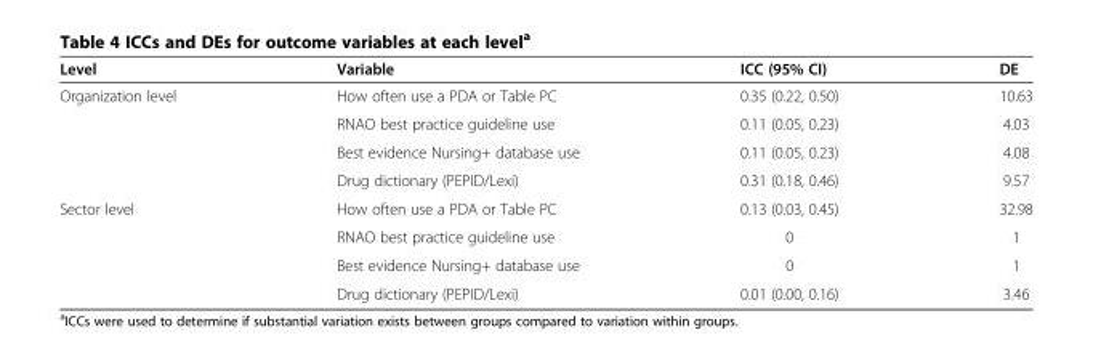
<table><thead><tr><td>Level</td><td>Variable</td><td>ICC (95% CI)</td><td>DE</td></tr></thead><tbody><tr><td rowspan="4">Organization level</td><td>How often use a PDA or Table PC</td><td>0.35 (0.22, 0.50)</td><td>10.63</td></tr><tr><td>RNAO best practice guideline use</td><td>0.11 (0.05, 0.23)</td><td>4.03</td></tr><tr><td>Best evidence Nursing+ database use</td><td>0.11 (0.05, 0.23)</td><td>4.08</td></tr><tr><td>Drug dictionary (PEPID/Lexi)</td><td>0.31 (0.18, 0.46)</td><td>9.57</td></tr><tr><td rowspan="4">Sector level</td><td>How often use a PDA or Table PC</td><td>0.13 (0.03, 0.45)</td><td>32.98</td></tr><tr><td>RNAO best practice guideline use</td><td>0</td><td>1</td></tr><tr><td>Best evidence Nursing+ database use</td><td>0</td><td>1</td></tr><tr><td>Drug dictionary (PEPID/Lexi)</td><td>0.01 (0.00, 0.16)</td><td>3.46</td></tr></tbody></table>